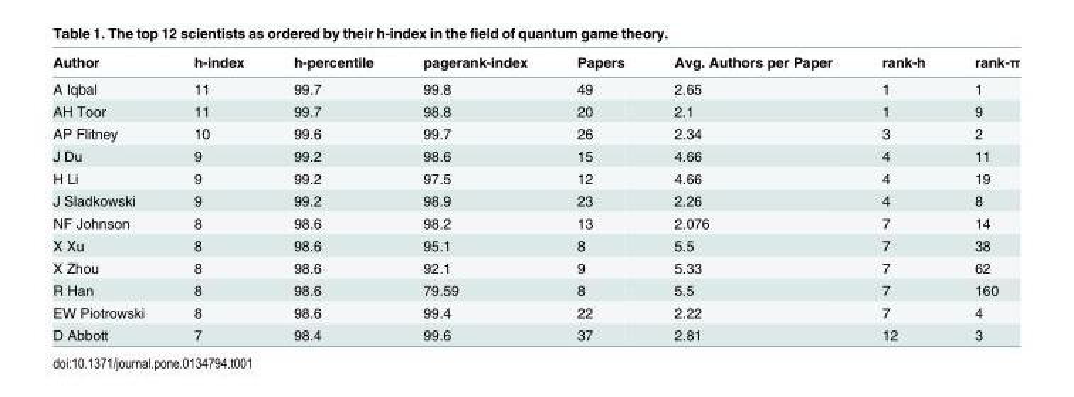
<table><thead><tr><td>Author</td><td>h-index</td><td>h-percentile</td><td>pagerank-index</td><td>Papers</td><td>Avg. Authors per Paper</td><td>rank-h</td><td>rank-π</td></tr></thead><tbody><tr><td>A Iqbal</td><td>11</td><td>99.7</td><td>99.8</td><td>49</td><td>2.65</td><td>1</td><td>1</td></tr><tr><td>AH Toor</td><td>11</td><td>99.7</td><td>98.8</td><td>20</td><td>2.1</td><td>1</td><td>9</td></tr><tr><td>AP Flitney</td><td>10</td><td>99.6</td><td>99.7</td><td>26</td><td>2.34</td><td>3</td><td>2</td></tr><tr><td>J Du</td><td>9</td><td>99.2</td><td>98.6</td><td>15</td><td>4.66</td><td>4</td><td>11</td></tr><tr><td>H Li</td><td>9</td><td>99.2</td><td>97.5</td><td>12</td><td>4.66</td><td>4</td><td>19</td></tr><tr><td>J Sladkowski</td><td>9</td><td>99.2</td><td>98.9</td><td>23</td><td>2.26</td><td>4</td><td>8</td></tr><tr><td>NF Johnson</td><td>8</td><td>98.6</td><td>98.2</td><td>13</td><td>2.076</td><td>7</td><td>14</td></tr><tr><td>X Xu</td><td>8</td><td>98.6</td><td>95.1</td><td>8</td><td>5.5</td><td>7</td><td>38</td></tr><tr><td>X Zhou</td><td>8</td><td>98.6</td><td>92.1</td><td>9</td><td>5.33</td><td>7</td><td>62</td></tr><tr><td>R Han</td><td>8</td><td>98.6</td><td>79.59</td><td>8</td><td>5.5</td><td>7</td><td>160</td></tr><tr><td>EW Piotrowski</td><td>8</td><td>98.6</td><td>99.4</td><td>22</td><td>2.22</td><td>7</td><td>4</td></tr><tr><td>D Abbott</td><td>7</td><td>98.4</td><td>99.6</td><td>37</td><td>2.81</td><td>12</td><td>3</td></tr></tbody></table>